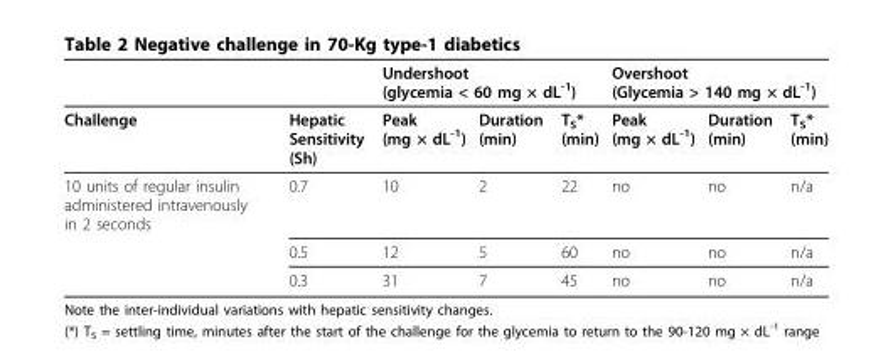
<table><thead><tr><td rowspan="2">Challenge</td><td rowspan="2">Hepatic Sensitivity (Sh)</td><td colspan="3">Undershoot (glycemia &lt; 60 mg × dL<sup>-1</sup>)</td><td colspan="3">Overshoot (Glycemia &gt; 140 mg × dL<sup>-1</sup>)</td></tr><tr><td>Peak (mg × dL<sup>-1</sup>)</td><td>Duration (min)</td><td>T<sub>S</sub>* (min)</td><td>Peak (mg × dL<sup>-1</sup>)</td><td>Duration (min)</td><td>T<sub>S</sub>* (min)</td></tr></thead><tbody><tr><td rowspan="3">10 units of regular insulin administered intravenously in 2 seconds</td><td>0.7</td><td>10</td><td>2</td><td>22</td><td>no</td><td>no</td><td>n/a</td></tr><tr><td>0.5</td><td>12</td><td>5</td><td>60</td><td>no</td><td>no</td><td>n/a</td></tr><tr><td>0.3</td><td>31</td><td>7</td><td>45</td><td>no</td><td>no</td><td>n/a</td></tr></tbody></table>